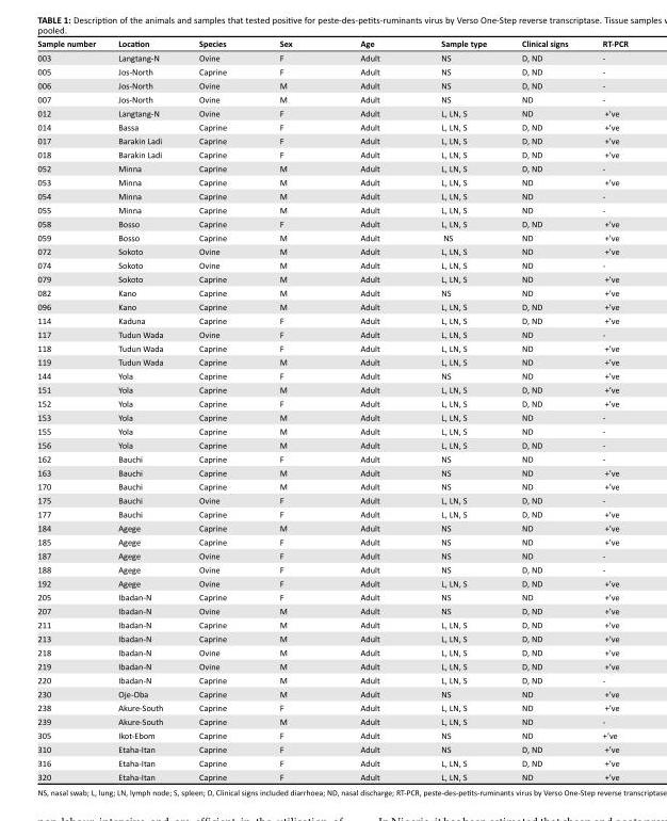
<table><thead><tr><td>Sample number</td><td>Location</td><td>Species</td><td>Sex</td><td>Age</td><td>Sample type</td><td>Clinical signs</td><td>RT-PCR</td></tr></thead><tbody><tr><td>003</td><td>Langtang-N</td><td>Ovine</td><td>F</td><td>Adult</td><td>NS</td><td>D, ND</td><td>-</td></tr><tr><td>005</td><td>Jos-North</td><td>Caprine</td><td>F</td><td>Adult</td><td>NS</td><td>D, ND</td><td>-</td></tr><tr><td>006</td><td>Jos-North</td><td>Ovine</td><td>M</td><td>Adult</td><td>NS</td><td>D, ND</td><td>-</td></tr><tr><td>007</td><td>Jos-North</td><td>Ovine</td><td>M</td><td>Adult</td><td>NS</td><td>ND</td><td>-</td></tr><tr><td>012</td><td>Langtang-N</td><td>Ovine</td><td>F</td><td>Adult</td><td>L, LN, S</td><td>ND</td><td>+’ve</td></tr><tr><td>014</td><td>Bassa</td><td>Caprine</td><td>F</td><td>Adult</td><td>L, LN, S</td><td>D, ND</td><td>+’ve</td></tr><tr><td>017</td><td>Barakin Ladi</td><td>Caprine</td><td>F</td><td>Adult</td><td>L, LN, S</td><td>D, ND</td><td>+’ve</td></tr><tr><td>018</td><td>Barakin Ladi</td><td>Caprine</td><td>F</td><td>Adult</td><td>L, LN, S</td><td>D, ND</td><td>+’ve</td></tr><tr><td>052</td><td>Minna</td><td>Caprine</td><td>M</td><td>Adult</td><td>L, LN, S</td><td>D, ND</td><td>-</td></tr><tr><td>053</td><td>Minna</td><td>Caprine</td><td>M</td><td>Adult</td><td>L, LN, S</td><td>ND</td><td>+’ve</td></tr><tr><td>054</td><td>Minna</td><td>Caprine</td><td>M</td><td>Adult</td><td>L, LN, S</td><td>ND</td><td>-</td></tr><tr><td>055</td><td>Minna</td><td>Caprine</td><td>M</td><td>Adult</td><td>L, LN, S</td><td>ND</td><td>-</td></tr><tr><td>058</td><td>Bosso</td><td>Caprine</td><td>F</td><td>Adult</td><td>L, LN, S</td><td>D, ND</td><td>+’ve</td></tr><tr><td>059</td><td>Bosso</td><td>Caprine</td><td>M</td><td>Adult</td><td>NS</td><td>ND</td><td>+’ve</td></tr><tr><td>072</td><td>Sokoto</td><td>Ovine</td><td>M</td><td>Adult</td><td>L, LN, S</td><td>ND</td><td>+’ve</td></tr><tr><td>074</td><td>Sokoto</td><td>Ovine</td><td>M</td><td>Adult</td><td>L, LN, S</td><td>ND</td><td>-</td></tr><tr><td>079</td><td>Sokoto</td><td>Caprine</td><td>M</td><td>Adult</td><td>L, LN, S</td><td>ND</td><td>+’ve</td></tr><tr><td>082</td><td>Kano</td><td>Caprine</td><td>M</td><td>Adult</td><td>NS</td><td>ND</td><td>+’ve</td></tr><tr><td>096</td><td>Kano</td><td>Caprine</td><td>M</td><td>Adult</td><td>L, LN, S</td><td>D, ND</td><td>+’ve</td></tr><tr><td>114</td><td>Kaduna</td><td>Caprine</td><td>F</td><td>Adult</td><td>L, LN, S</td><td>D, ND</td><td>+’ve</td></tr><tr><td>117</td><td>Tudun Wada</td><td>Ovine</td><td>F</td><td>Adult</td><td>L, LN, S</td><td>ND</td><td>-</td></tr><tr><td>118</td><td>Tudun Wada</td><td>Caprine</td><td>F</td><td>Adult</td><td>L, LN, S</td><td>ND</td><td>+’ve</td></tr><tr><td>119</td><td>Tudun Wada</td><td>Caprine</td><td>M</td><td>Adult</td><td>L, LN, S</td><td>ND</td><td>+’ve</td></tr><tr><td>144</td><td>Yola</td><td>Caprine</td><td>F</td><td>Adult</td><td>NS</td><td>ND</td><td>+’ve</td></tr><tr><td>151</td><td>Yola</td><td>Caprine</td><td>M</td><td>Adult</td><td>L, LN, S</td><td>D, ND</td><td>+’ve</td></tr><tr><td>152</td><td>Yola</td><td>Caprine</td><td>F</td><td>Adult</td><td>L, LN, S</td><td>D, ND</td><td>+’ve</td></tr><tr><td>153</td><td>Yola</td><td>Caprine</td><td>M</td><td>Adult</td><td>L, LN, S</td><td>ND</td><td>-</td></tr><tr><td>155</td><td>Yola</td><td>Caprine</td><td>M</td><td>Adult</td><td>L, LN, S</td><td>ND</td><td>-</td></tr><tr><td>156</td><td>Yola</td><td>Caprine</td><td>M</td><td>Adult</td><td>L, LN, S</td><td>D, ND</td><td>-</td></tr><tr><td>162</td><td>Bauchi</td><td>Caprine</td><td>F</td><td>Adult</td><td>NS</td><td>ND</td><td>-</td></tr><tr><td>163</td><td>Bauchi</td><td>Caprine</td><td>M</td><td>Adult</td><td>NS</td><td>ND</td><td>+’ve</td></tr><tr><td>170</td><td>Bauchi</td><td>Caprine</td><td>M</td><td>Adult</td><td>NS</td><td>ND</td><td>+’ve</td></tr><tr><td>175</td><td>Bauchi</td><td>Ovine</td><td>F</td><td>Adult</td><td>L, LN, S</td><td>D, ND</td><td>-</td></tr><tr><td>177</td><td>Bauchi</td><td>Caprine</td><td>F</td><td>Adult</td><td>L, LN, S</td><td>D, ND</td><td>+’ve</td></tr><tr><td>184</td><td>Agege</td><td>Caprine</td><td>M</td><td>Adult</td><td>NS</td><td>ND</td><td>+’ve</td></tr><tr><td>185</td><td>Agege</td><td>Caprine</td><td>F</td><td>Adult</td><td>NS</td><td>ND</td><td>+’ve</td></tr><tr><td>187</td><td>Agege</td><td>Ovine</td><td>F</td><td>Adult</td><td>NS</td><td>ND</td><td>-</td></tr><tr><td>188</td><td>Agege</td><td>Ovine</td><td>F</td><td>Adult</td><td>NS</td><td>D, ND</td><td>-</td></tr><tr><td>192</td><td>Agege</td><td>Ovine</td><td>F</td><td>Adult</td><td>L, LN, S</td><td>D, ND</td><td>+’ve</td></tr><tr><td>205</td><td>Ibadan-N</td><td>Caprine</td><td>F</td><td>Adult</td><td>NS</td><td>ND</td><td>+’ve</td></tr><tr><td>207</td><td>Ibadan-N</td><td>Ovine</td><td>M</td><td>Adult</td><td>NS</td><td>D, ND</td><td>+’ve</td></tr><tr><td>211</td><td>Ibadan-N</td><td>Caprine</td><td>M</td><td>Adult</td><td>L, LN, S</td><td>D, ND</td><td>+’ve</td></tr><tr><td>213</td><td>Ibadan-N</td><td>Caprine</td><td>M</td><td>Adult</td><td>L, LN, S</td><td>D, ND</td><td>+’ve</td></tr><tr><td>218</td><td>Ibadan-N</td><td>Ovine</td><td>M</td><td>Adult</td><td>L, LN, S</td><td>D, ND</td><td>+’ve</td></tr><tr><td>219</td><td>Ibadan-N</td><td>Ovine</td><td>M</td><td>Adult</td><td>L, LN, S</td><td>D, ND</td><td>+’ve</td></tr><tr><td>220</td><td>Ibadan-N</td><td>Caprine</td><td>M</td><td>Adult</td><td>L, LN, S</td><td>D, ND</td><td>-</td></tr><tr><td>230</td><td>Oje-Oba</td><td>Caprine</td><td>M</td><td>Adult</td><td>NS</td><td>ND</td><td>+’ve</td></tr><tr><td>238</td><td>Akure-South</td><td>Caprine</td><td>F</td><td>Adult</td><td>L, LN, S</td><td>ND</td><td>+’ve</td></tr><tr><td>239</td><td>Akure-South</td><td>Caprine</td><td>M</td><td>Adult</td><td>L, LN, S</td><td>ND</td><td>-</td></tr><tr><td>305</td><td>Ikot-Ebom</td><td>Caprine</td><td>F</td><td>Adult</td><td>NS</td><td>ND</td><td>+’ve</td></tr><tr><td>310</td><td>Etaha-Itan</td><td>Caprine</td><td>F</td><td>Adult</td><td>NS</td><td>D, ND</td><td>+’ve</td></tr><tr><td>316</td><td>Etaha-Itan</td><td>Caprine</td><td>F</td><td>Adult</td><td>L, LN, S</td><td>D, ND</td><td>+’ve</td></tr><tr><td>320</td><td>Etaha-Itan</td><td>Caprine</td><td>F</td><td>Adult</td><td>L, LN, S</td><td>ND</td><td>+’ve</td></tr></tbody></table>